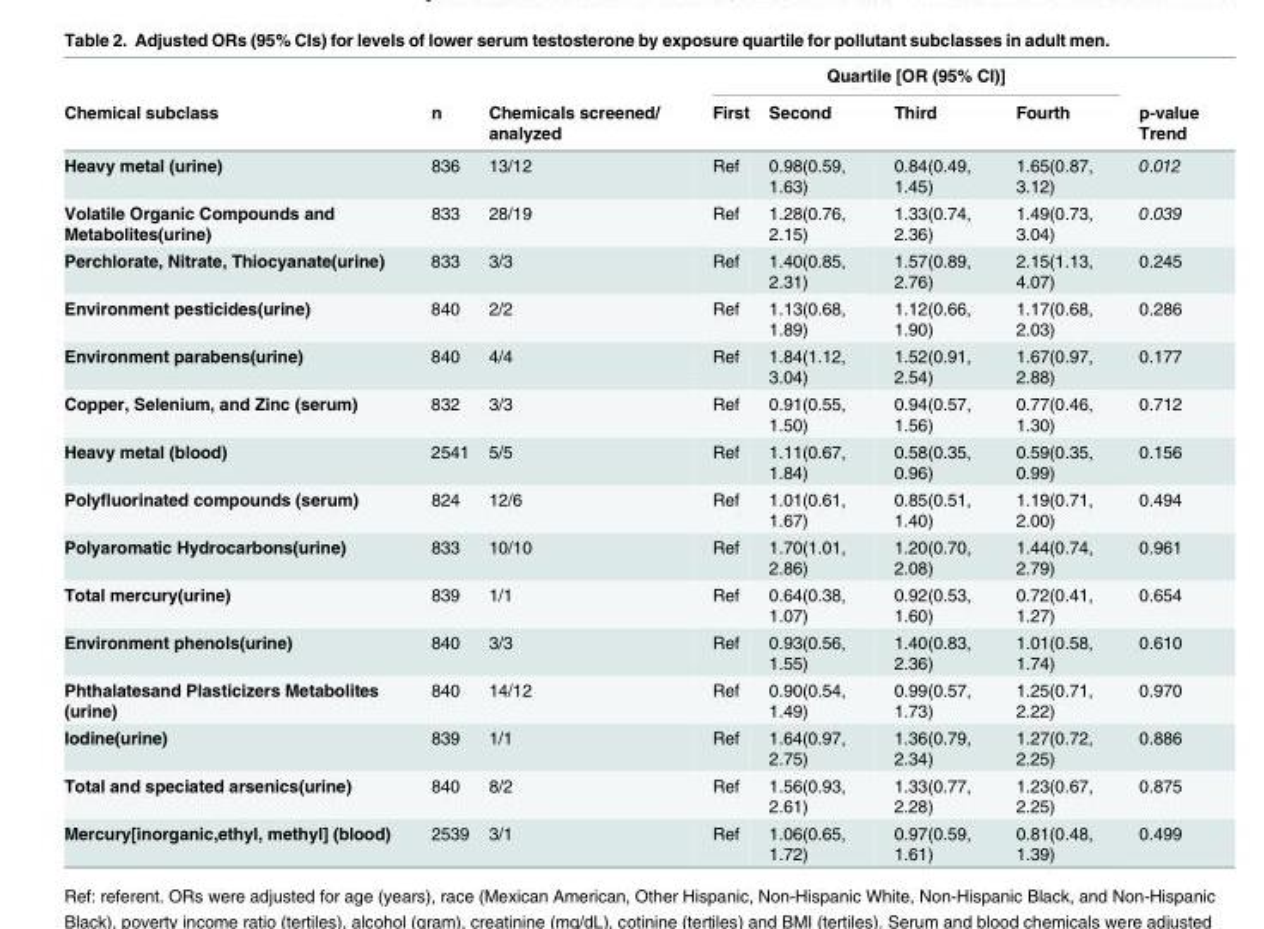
<table><thead><tr><td rowspan="2">Chemical subclass</td><td rowspan="2">n</td><td rowspan="2">Chemicals screened/ analyzed</td><td colspan="4">Quartile [OR (95% CI)]</td><td rowspan="2">p-value Trend</td></tr><tr><td>First</td><td>Second</td><td>Third</td><td>Fourth</td></tr></thead><tbody><tr><td>Heavy metal (urine)</td><td>836</td><td>13/12</td><td>Ref</td><td>0.98(0.59, 1.63)</td><td>0.84(0.49, 1.45)</td><td>1.65(0.87, 3.12)</td><td>0.012</td></tr><tr><td>Volatile Organic Compounds and Metabolites(urine)</td><td>833</td><td>28/19</td><td>Ref</td><td>1.28(0.76, 2.15)</td><td>1.33(0.74, 2.36)</td><td>1.49(0.73, 3.04)</td><td>0.039</td></tr><tr><td>Perchlorate, Nitrate, Thiocyanate(urine)</td><td>833</td><td>3/3</td><td>Ref</td><td>1.40(0.85, 2.31)</td><td>1.57(0.89, 2.76)</td><td>2.15(1.13, 4.07)</td><td>0.245</td></tr><tr><td>Environment pesticides(urine)</td><td>840</td><td>2/2</td><td>Ref</td><td>1.13(0.68, 1.89)</td><td>1.12(0.66, 1.90)</td><td>1.17(0.68, 2.03)</td><td>0.286</td></tr><tr><td>Environment parabens(urine)</td><td>840</td><td>4/4</td><td>Ref</td><td>1.84(1.12, 3.04)</td><td>1.52(0.91, 2.54)</td><td>1.67(0.97, 2.88)</td><td>0.177</td></tr><tr><td>Copper, Selenium, and Zinc (serum)</td><td>832</td><td>3/3</td><td>Ref</td><td>0.91(0.55, 1.50)</td><td>0.94(0.57, 1.56)</td><td>0.77(0.46, 1.30)</td><td>0.712</td></tr><tr><td>Heavy metal (blood)</td><td>2541</td><td>5/5</td><td>Ref</td><td>1.11(0.67, 1.84)</td><td>0.58(0.35, 0.96)</td><td>0.59(0.35, 0.99)</td><td>0.156</td></tr><tr><td>Polyfluorinated compounds (serum)</td><td>824</td><td>12/6</td><td>Ref</td><td>1.01(0.61, 1.67)</td><td>0.85(0.51, 1.40)</td><td>1.19(0.71, 2.00)</td><td>0.494</td></tr><tr><td>Polyaromatic Hydrocarbons(urine)</td><td>833</td><td>10/10</td><td>Ref</td><td>1.70(1.01, 2.86)</td><td>1.20(0.70, 2.08)</td><td>1.44(0.74, 2.79)</td><td>0.961</td></tr><tr><td>Total mercury(urine)</td><td>839</td><td>1/1</td><td>Ref</td><td>0.64(0.38, 1.07)</td><td>0.92(0.53, 1.60)</td><td>0.72(0.41, 1.27)</td><td>0.654</td></tr><tr><td>Environment phenols(urine)</td><td>840</td><td>3/3</td><td>Ref</td><td>0.93(0.56, 1.55)</td><td>1.40(0.83, 2.36)</td><td>1.01(0.58, 1.74)</td><td>0.610</td></tr><tr><td>Phthalatesand Plasticizers Metabolites (urine)</td><td>840</td><td>14/12</td><td>Ref</td><td>0.90(0.54, 1.49)</td><td>0.99(0.57, 1.73)</td><td>1.25(0.71, 2.22)</td><td>0.970</td></tr><tr><td>Iodine(urine)</td><td>839</td><td>1/1</td><td>Ref</td><td>1.64(0.97, 2.75)</td><td>1.36(0.79, 2.34)</td><td>1.27(0.72, 2.25)</td><td>0.886</td></tr><tr><td>Total and speciated arsenics(urine)</td><td>840</td><td>8/2</td><td>Ref</td><td>1.56(0.93, 2.61)</td><td>1.33(0.77, 2.28)</td><td>1.23(0.67, 2.25)</td><td>0.875</td></tr><tr><td>Mercury[inorganic,ethyl, methyl] (blood)</td><td>2539</td><td>3/1</td><td>Ref</td><td>1.06(0.65, 1.72)</td><td>0.97(0.59, 1.61)</td><td>0.81(0.48, 1.39)</td><td>0.499</td></tr></tbody></table>